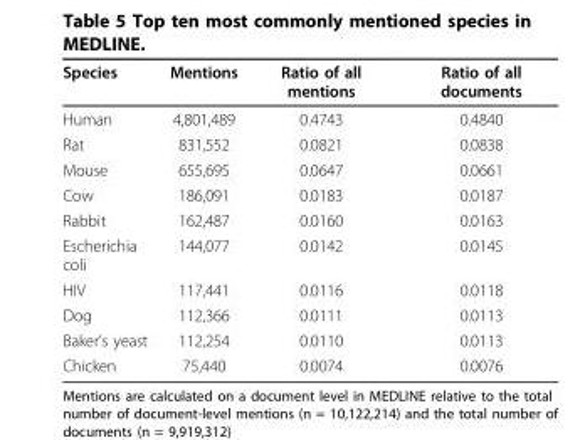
<table><thead><tr><td>Species</td><td>Mentions</td><td>Ratio of all mentions</td><td>Ratio of all documents</td></tr></thead><tbody><tr><td>Human</td><td>4,801,489</td><td>0.4743</td><td>0.4840</td></tr><tr><td>Rat</td><td>831,552</td><td>0.0821</td><td>0.0838</td></tr><tr><td>Mouse</td><td>655,695</td><td>0.0647</td><td>0.0661</td></tr><tr><td>Cow</td><td>186,091</td><td>0.0183</td><td>0.0187</td></tr><tr><td>Rabbit</td><td>162,487</td><td>0.0160</td><td>0.0163</td></tr><tr><td>Escherichia coli</td><td>144,077</td><td>0.0142</td><td>0.0145</td></tr><tr><td>HIV</td><td>117,441</td><td>0.0116</td><td>0.0118</td></tr><tr><td>Dog</td><td>112,366</td><td>0.0111</td><td>0.0113</td></tr><tr><td>Baker’s yeast</td><td>112,254</td><td>0.0110</td><td>0.0113</td></tr><tr><td>Chicken</td><td>75,440</td><td>0.0074</td><td>0.0076</td></tr></tbody></table>